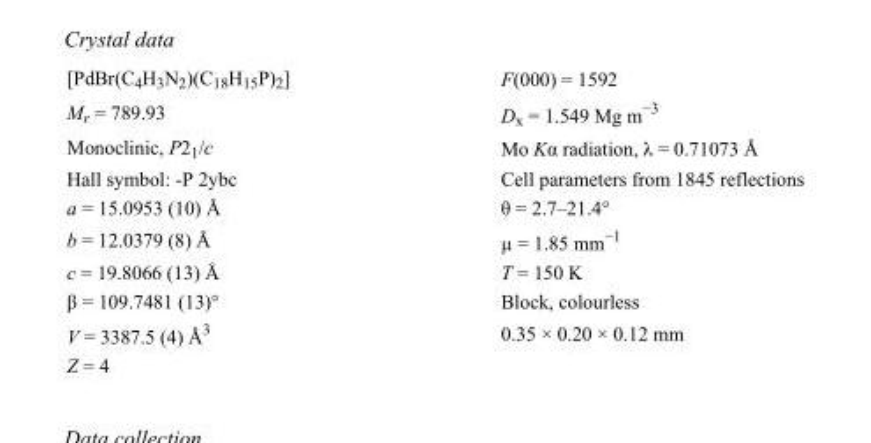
<table><tbody><tr><td>[PdBr(C<sub>4</sub>H<sub>3</sub>N<sub>2</sub>)(C<sub>18</sub>H<sub>15</sub>P)<sub>2</sub>]</td><td>F(000) = 1592</td></tr><tr><td>M<sub>r</sub> = 789.93</td><td>D<sub>x</sub> = 1.549 Mg m<sup>−3</sup></td></tr><tr><td>Monoclinic, P2<sub>1</sub>/c</td><td>Mo Kα radiation, λ = 0.71073 Å</td></tr><tr><td>Hall symbol: -P 2ybc</td><td>Cell parameters from 1845 reflections</td></tr><tr><td>a = 15.0953 (10) Å</td><td>θ = 2.7–21.4°</td></tr><tr><td>b = 12.0379 (8) Å</td><td>µ = 1.85 mm<sup>−1</sup></td></tr><tr><td>c = 19.8066 (13) Å</td><td>T = 150 K</td></tr><tr><td>β = 109.7481 (13)°</td><td>Block, colourless</td></tr><tr><td>V = 3387.5 (4) Å<sup>3</sup></td><td>0.35 × 0.20 × 0.12 mm</td></tr><tr><td>Z = 4</td><td></td></tr></tbody></table>